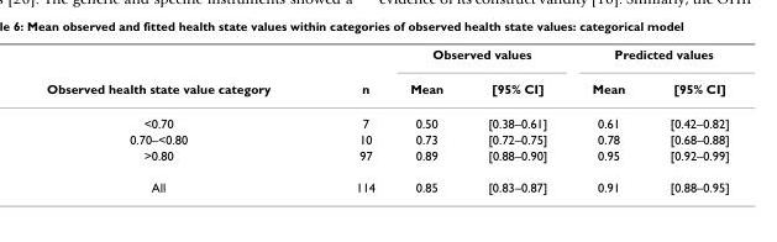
<table><thead><tr><td rowspan="2">Observed health state value category</td><td rowspan="2">n</td><td colspan="2">Observed values</td><td colspan="2">Predicted values</td></tr><tr><td>Mean</td><td>[95% CI]</td><td>Mean</td><td>[95% CI]</td></tr></thead><tbody><tr><td>&lt;0.70</td><td>7</td><td>0.50</td><td>[0.38–0.61]</td><td>0.61</td><td>[0.42–0.82]</td></tr><tr><td>0.70–&lt;0.80</td><td>10</td><td>0.73</td><td>[0.72–0.75]</td><td>0.78</td><td>[0.68–0.88]</td></tr><tr><td>&gt;0.80</td><td>97</td><td>0.89</td><td>[0.88–0.90]</td><td>0.95</td><td>[0.92–0.99]</td></tr><tr><td>All</td><td>114</td><td>0.85</td><td>[0.83–0.87]</td><td>0.91</td><td>[0.88–0.95]</td></tr></tbody></table>